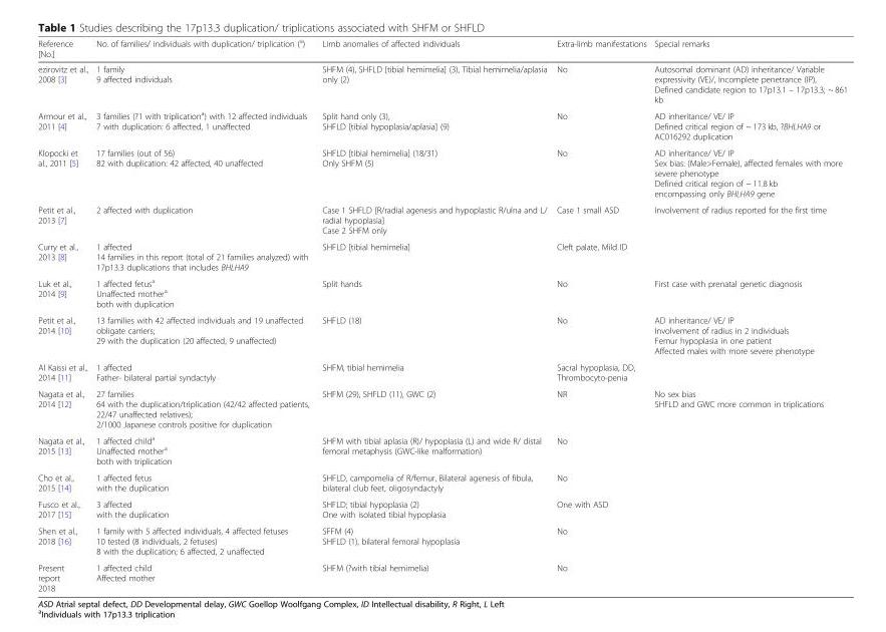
<table><thead><tr><td>Reference [No.]</td><td>No. of families/ individuals with duplication/ triplication (<sup>a</sup>)</td><td>Limb anomalies of affected individuals</td><td>Extra-limb manifestations</td><td>Special remarks</td></tr></thead><tbody><tr><td>ezirovitz et al., 2008 [3]</td><td>1 family 9 affected individuals</td><td>SHFM (4), SHFLD [tibial hemimelia] (3), Tibial hemimelia/aplasia only (2)</td><td>No</td><td>Autosomal dominant (AD) inheritance/ Variable expressivity (VE)/, Incomplete penetrance (IP), Defined candidate region to 17p13.1 – 17p13.3; ~ 861 kb</td></tr><tr><td>Armour et al., 2011 [4]</td><td>3 families (?1 with triplication<sup>a</sup>) with 12 affected individuals 7 with duplication: 6 affected, 1 unaffected</td><td>Split hand only (3), SHFLD [tibial hypoplasia/aplasia] (9)</td><td>No</td><td>AD inheritance/ VE/ IP Defined critical region of ~ 173 kb, ?BHLHA9 or AC016292 duplication</td></tr><tr><td>Klopocki et al., 2011 [5]</td><td>17 families (out of 56) 82 with duplication: 42 affected, 40 unaffected</td><td>SHFLD [tibial hemimelia] (18/31) Only SHFM (5)</td><td>No</td><td>AD inheritance/ VE/ IP Sex bias: (Male&gt;Female), affected females with more severe phenotype Defined critical region of ~ 11.8 kb encompassing only BHLHA9 gene</td></tr><tr><td>Petit et al., 2013 [7]</td><td>2 affected with duplication</td><td>Case 1 SHFLD [R/radial agenesis and hypoplastic R/ulna and L/ radial hypoplasia] Case 2 SHFM only</td><td>Case 1 small ASD</td><td>Involvement of radius reported for the first time</td></tr><tr><td>Curry et al., 2013 [8]</td><td>1 affected 14 families in this report (total of 21 families analyzed) with 17p13.3 duplications that includes BHLHA9</td><td>SHFLD [tibial hemimelia]</td><td>Cleft palate, Mild ID</td><td></td></tr><tr><td>Luk et al., 2014 [9]</td><td>1 affected fetus<sup>a</sup> Unaffected mother<sup>a</sup> both with duplication</td><td>Split hands</td><td>No</td><td>First case with prenatal genetic diagnosis</td></tr><tr><td>Petit et al., 2014 [10]</td><td>13 families with 42 affected individuals and 19 unaffected obligate carriers; 29 with the duplication (20 affected, 9 unaffected)</td><td>SHFLD (18)</td><td>No</td><td>AD inheritance/ VE/ IP Involvement of radius in 2 individuals Femur hypoplasia in one patient Affected males with more severe phenotype</td></tr><tr><td>Al Kaissi et al., 2014 [11]</td><td>1 affected Father- bilateral partial syndactyly</td><td>SHFM, tibial hemimelia</td><td>Sacral hypoplasia, DD, Thrombocyto-penia</td><td></td></tr><tr><td>Nagata et al., 2014 [12]</td><td>27 families 64 with the duplication/triplication (42/42 affected patients, 22/47 unaffected relatives); 2/1000 Japanese controls positive for duplication</td><td>SHFM (29), SHFLD (11), GWC (2)</td><td>NR</td><td>No sex bias SHFLD and GWC more common in triplications</td></tr><tr><td>Nagata et al., 2015 [13]</td><td>1 affected child<sup>a</sup> Unaffected mother<sup>a</sup> both with triplication</td><td>SHFM with tibial aplasia (R)/ hypoplasia (L) and wide R/ distal femoral metaphysis (GWC-like malformation)</td><td>No</td><td></td></tr><tr><td>Cho et al., 2015 [14]</td><td>1 affected fetus with the duplication</td><td>SHFLD, campomelia of R/femur, Bilateral agenesis of fibula, bilateral club feet, oligosyndactyly</td><td>No</td><td></td></tr><tr><td>Fusco et al., 2017 [15]</td><td>3 affected with the duplication</td><td>SHFLD; tibial hypoplasia (2) One with isolated tibial hypoplasia</td><td>One with ASD</td><td></td></tr><tr><td>Shen et al., 2018 [16]</td><td>1 family with 5 affected individuals, 4 affected fetuses 10 tested (8 individuals, 2 fetuses) 8 with the duplication; 6 affected, 2 unaffected</td><td>SFFM (4) SHFLD (1), bilateral femoral hypoplasia</td><td>No</td><td></td></tr><tr><td>Present report 2018</td><td>1 affected child Affected mother</td><td>SHFM (?with tibial hemimelia)</td><td>No</td><td></td></tr></tbody></table>